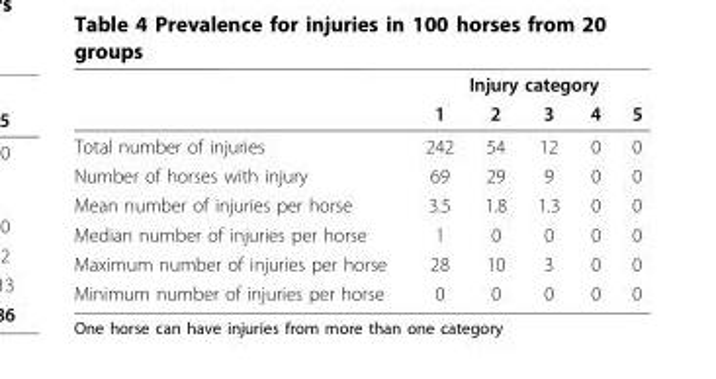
<table><thead><tr><td rowspan="2"></td><td colspan="5">Injury category</td></tr><tr><td>1</td><td>2</td><td>3</td><td>4</td><td>5</td></tr></thead><tbody><tr><td>Total number of injuries</td><td>242</td><td>54</td><td>12</td><td>0</td><td>0</td></tr><tr><td>Number of horses with injury</td><td>69</td><td>29</td><td>9</td><td>0</td><td>0</td></tr><tr><td>Mean number of injuries per horse</td><td>3.5</td><td>1.8</td><td>1.3</td><td>0</td><td>0</td></tr><tr><td>Median number of injuries per horse</td><td>1</td><td>0</td><td>0</td><td>0</td><td>0</td></tr><tr><td>Maximum number of injuries per horse</td><td>28</td><td>10</td><td>3</td><td>0</td><td>0</td></tr><tr><td>Minimum number of injuries per horse</td><td>0</td><td>0</td><td>0</td><td>0</td><td>0</td></tr></tbody></table>